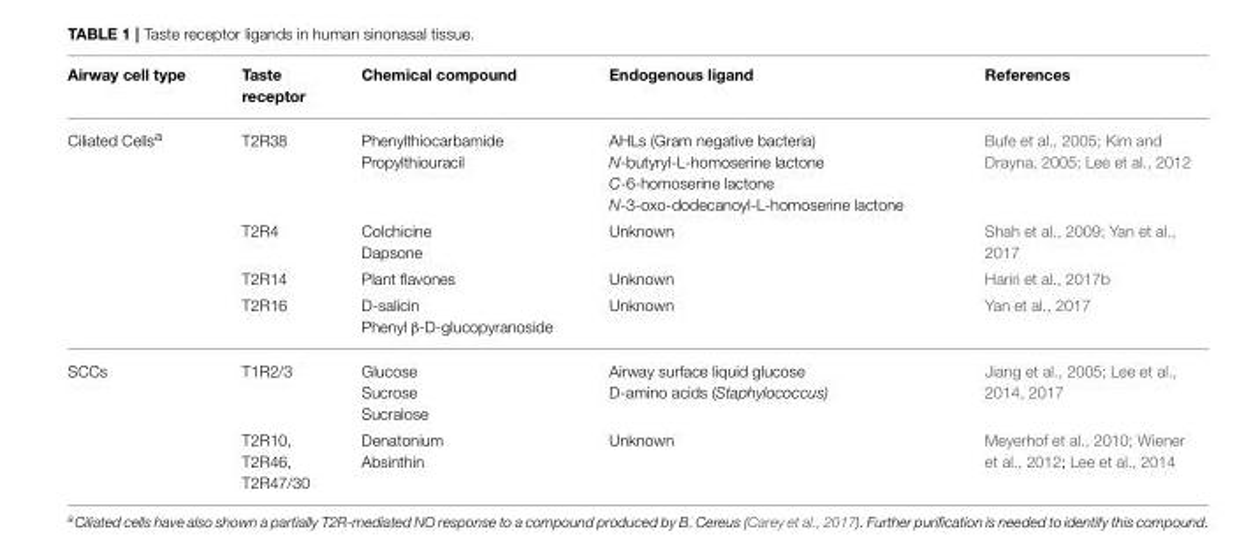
<table><thead><tr><td>Airway cell type</td><td>Taste receptor</td><td>Chemical compound</td><td>Endogenous ligand</td><td>References</td></tr></thead><tbody><tr><td rowspan="4">Ciliated Cells<sup>a</sup></td><td>T2R38</td><td>Phenylthiocarbamide Propylthiouracil</td><td>AHLs (Gram negative bacteria) N-butyryl-L-homoserine lactone C-6-homoserine lactone N-3-oxo-dodecanoyl-L-homoserine lactone</td><td>Bufe et al., 2005; Kim and Drayna, 2005; Lee et al., 2012</td></tr><tr><td>T2R4</td><td>Colchicine Dapsone</td><td>Unknown</td><td>Shah et al., 2009; Yan et al., 2017</td></tr><tr><td>T2R14</td><td>Plant flavones</td><td>Unknown</td><td>Hariri et al., 2017b</td></tr><tr><td>T2R16</td><td>D-salicin Phenyl β-D-glucopyranoside</td><td>Unknown</td><td>Yan et al., 2017</td></tr><tr><td rowspan="2">SCCs</td><td>T1R2/3</td><td>Glucose Sucrose Sucralose</td><td>Airway surface liquid glucose D-amino acids (Staphylococcus)</td><td>Jiang et al., 2005; Lee et al., 2014, 2017</td></tr><tr><td>T2R10, T2R46, T2R47/30</td><td>Denatonium Absinthin</td><td>Unknown</td><td>Meyerhof et al., 2010; Wiener et al., 2012; Lee et al., 2014</td></tr></tbody></table>